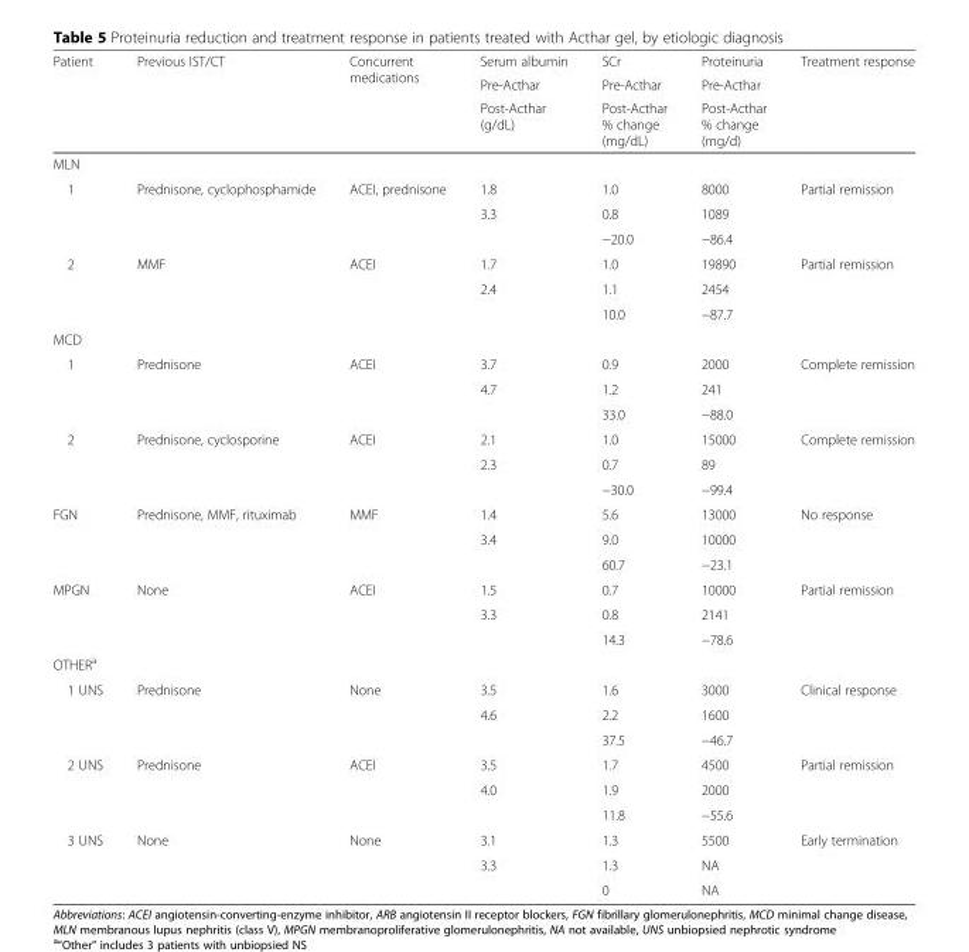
<table><thead><tr><td rowspan="3">Patient</td><td rowspan="3">Previous IST/CT</td><td rowspan="3">Concurrent medications</td><td rowspan="3">Serum albumin Pre-Acthar Post-Acthar (g/dL)</td><td rowspan="3">SCr Pre-Acthar Post-Acthar % change (mg/dL)</td><td rowspan="3">Proteinuria Pre-Acthar Post-Acthar % change (mg/d)</td><td rowspan="3">Treatment response</td></tr><tr></tr><tr></tr></thead><tbody><tr><td colspan="7">MLN</td></tr><tr><td rowspan="3">1</td><td rowspan="3">Prednisone, cyclophosphamide</td><td rowspan="3">ACEI, prednisone</td><td>1.8</td><td>1.0</td><td>8000</td><td rowspan="3">Partial remission</td></tr><tr><td>3.3</td><td>0.8</td><td>1089</td></tr><tr><td></td><td>−20.0</td><td>−86.4</td></tr><tr><td rowspan="3">2</td><td rowspan="3">MMF</td><td rowspan="3">ACEI</td><td>1.7</td><td>1.0</td><td>19890</td><td rowspan="3">Partial remission</td></tr><tr><td rowspan="2">2.4</td><td>1.1</td><td>2454</td></tr><tr><td>10.0</td><td>−87.7</td></tr><tr><td colspan="7">MCD</td></tr><tr><td rowspan="3">1</td><td rowspan="3">Prednisone</td><td rowspan="3">ACEI</td><td>3.7</td><td>0.9</td><td>2000</td><td rowspan="3">Complete remission</td></tr><tr><td rowspan="2">4.7</td><td>1.2</td><td>241</td></tr><tr><td>33.0</td><td>−88.0</td></tr><tr><td rowspan="3">2</td><td rowspan="3">Prednisone, cyclosporine</td><td rowspan="3">ACEI</td><td>2.1</td><td>1.0</td><td>15000</td><td rowspan="3">Complete remission</td></tr><tr><td rowspan="2">2.3</td><td>0.7</td><td>89</td></tr><tr><td>−30.0</td><td>−99.4</td></tr><tr><td rowspan="3">FGN</td><td rowspan="3">Prednisone, MMF, rituximab</td><td rowspan="3">MMF</td><td>1.4</td><td>5.6</td><td>13000</td><td rowspan="3">No response</td></tr><tr><td rowspan="2">3.4</td><td>9.0</td><td>10000</td></tr><tr><td>60.7</td><td>−23.1</td></tr><tr><td rowspan="3">MPGN</td><td rowspan="3">None</td><td rowspan="3">ACEI</td><td>1.5</td><td>0.7</td><td>10000</td><td rowspan="3">Partial remission</td></tr><tr><td rowspan="2">3.3</td><td>0.8</td><td>2141</td></tr><tr><td>14.3</td><td>−78.6</td></tr><tr><td colspan="7">OTHER<sup>a</sup></td></tr><tr><td rowspan="3">1 UNS</td><td rowspan="3">Prednisone</td><td rowspan="3">None</td><td>3.5</td><td>1.6</td><td>3000</td><td rowspan="3">Clinical response</td></tr><tr><td rowspan="2">4.6</td><td>2.2</td><td>1600</td></tr><tr><td>37.5</td><td>−46.7</td></tr><tr><td rowspan="3">2 UNS</td><td rowspan="3">Prednisone</td><td rowspan="3">ACEI</td><td>3.5</td><td>1.7</td><td>4500</td><td rowspan="3">Partial remission</td></tr><tr><td rowspan="2">4.0</td><td>1.9</td><td>2000</td></tr><tr><td>11.8</td><td>−55.6</td></tr><tr><td rowspan="3">3 UNS</td><td rowspan="3">None</td><td rowspan="3">None</td><td>3.1</td><td>1.3</td><td>5500</td><td rowspan="3">Early termination</td></tr><tr><td rowspan="2">3.3</td><td>1.3</td><td>NA</td></tr><tr><td>0</td><td>NA</td></tr></tbody></table>